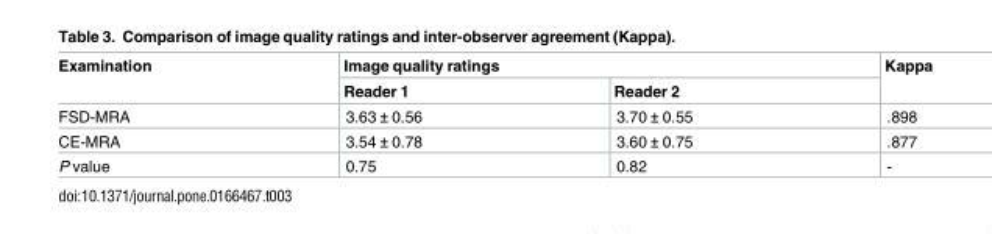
<table><thead><tr><td rowspan="2">Examination</td><td colspan="2">Image quality ratings</td><td rowspan="2">Kappa</td></tr><tr><td>Reader 1</td><td>Reader 2</td></tr></thead><tbody><tr><td>FSD-MRA</td><td>3.63 ± 0.56</td><td>3.70 ± 0.55</td><td>.898</td></tr><tr><td>CE-MRA</td><td>3.54 ± 0.78</td><td>3.60 ± 0.75</td><td>.877</td></tr><tr><td>P value</td><td>0.75</td><td>0.82</td><td>-</td></tr></tbody></table>